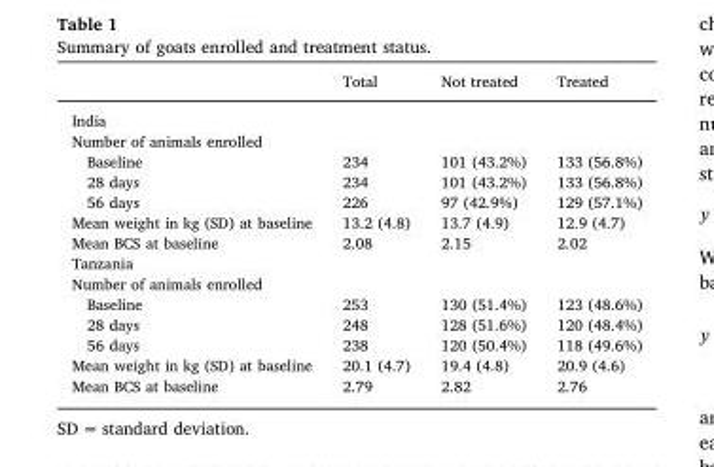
<table><thead><tr><td></td><td>Total</td><td>Not treated</td><td>Treated</td></tr></thead><tbody><tr><td colspan="4">India</td></tr><tr><td colspan="4">Number of animals enrolled</td></tr><tr><td>Baseline</td><td>234</td><td>101 (43.2%)</td><td>133 (56.8%)</td></tr><tr><td>28 days</td><td>234</td><td>101 (43.2%)</td><td>133 (56.8%)</td></tr><tr><td>56 days</td><td>226</td><td>97 (42.9%)</td><td>129 (57.1%)</td></tr><tr><td>Mean weight in kg (SD) at baseline</td><td>13.2 (4.8)</td><td>13.7 (4.9)</td><td>12.9 (4.7)</td></tr><tr><td>Mean BCS at baseline</td><td>2.08</td><td>2.15</td><td>2.02</td></tr><tr><td colspan="4">Tanzania</td></tr><tr><td colspan="4">Number of animals enrolled</td></tr><tr><td>Baseline</td><td>253</td><td>130 (51.4%)</td><td>123 (48.6%)</td></tr><tr><td>28 days</td><td>248</td><td>128 (51.6%)</td><td>120 (48.4%)</td></tr><tr><td>56 days</td><td>238</td><td>120 (50.4%)</td><td>118 (49.6%)</td></tr><tr><td>Mean weight in kg (SD) at baseline</td><td>20.1 (4.7)</td><td>19.4 (4.8)</td><td>20.9 (4.6)</td></tr><tr><td>Mean BCS at baseline</td><td>2.79</td><td>2.82</td><td>2.76</td></tr></tbody></table>